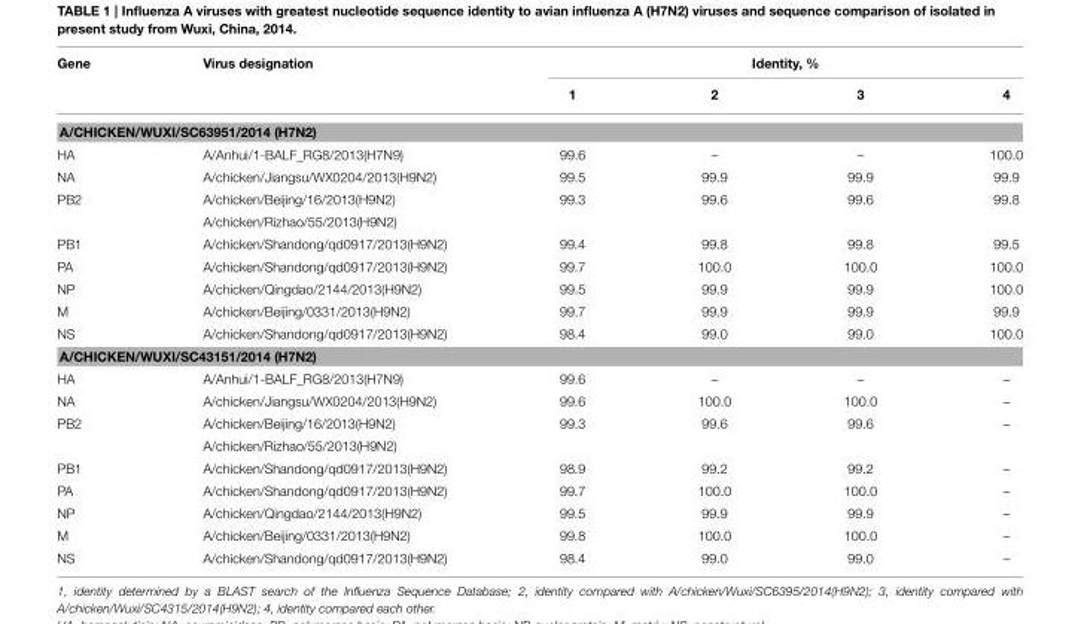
<table><thead><tr><td rowspan="2">Gene</td><td rowspan="2">Virus designation</td><td colspan="4">Identity, %</td></tr><tr><td>1</td><td>2</td><td>3</td><td>4</td></tr></thead><tbody><tr><td colspan="6">A/CHICKEN/WUXI/SC63951/2014 (H7N2)</td></tr><tr><td>HA</td><td>A/Anhui/1-BALF_RG8/2013(H7N9)</td><td>99.6</td><td>–</td><td>–</td><td>100.0</td></tr><tr><td>NA</td><td>A/chicken/Jiangsu/WX0204/2013(H9N2)</td><td>99.5</td><td>99.9</td><td>99.9</td><td>99.9</td></tr><tr><td rowspan="2">PB2</td><td>A/chicken/Beijing/16/2013(H9N2)</td><td>99.3</td><td>99.6</td><td>99.6</td><td>99.8</td></tr><tr><td>A/chicken/Rizhao/55/2013(H9N2)</td><td></td><td></td><td></td><td></td></tr><tr><td>PB1</td><td>A/chicken/Shandong/qd0917/2013(H9N2)</td><td>99.4</td><td>99.8</td><td>99.8</td><td>99.5</td></tr><tr><td>PA</td><td>A/chicken/Shandong/qd0917/2013(H9N2)</td><td>99.7</td><td>100.0</td><td>100.0</td><td>100.0</td></tr><tr><td>NP</td><td>A/chicken/Qingdao/2144/2013(H9N2)</td><td>99.5</td><td>99.9</td><td>99.9</td><td>100.0</td></tr><tr><td>M</td><td>A/chicken/Beijing/0331/2013(H9N2)</td><td>99.7</td><td>99.9</td><td>99.9</td><td>99.9</td></tr><tr><td>NS</td><td>A/chicken/Shandong/qd0917/2013(H9N2)</td><td>98.4</td><td>99.0</td><td>99.0</td><td>100.0</td></tr><tr><td colspan="6">A/CHICKEN/WUXI/SC43151/2014 (H7N2)</td></tr><tr><td>HA</td><td>A/Anhui/1-BALF_RG8/2013(H7N9)</td><td>99.6</td><td>–</td><td>–</td><td>–</td></tr><tr><td>NA</td><td>A/chicken/Jiangsu/WX0204/2013(H9N2)</td><td>99.6</td><td>100.0</td><td>100.0</td><td>–</td></tr><tr><td rowspan="2">PB2</td><td>A/chicken/Beijing/16/2013(H9N2)</td><td>99.3</td><td>99.6</td><td>99.6</td><td>–</td></tr><tr><td>A/chicken/Rizhao/55/2013(H9N2)</td><td></td><td></td><td></td><td></td></tr><tr><td>PB1</td><td>A/chicken/Shandong/qd0917/2013(H9N2)</td><td>98.9</td><td>99.2</td><td>99.2</td><td>–</td></tr><tr><td>PA</td><td>A/chicken/Shandong/qd0917/2013(H9N2)</td><td>99.7</td><td>100.0</td><td>100.0</td><td>–</td></tr><tr><td>NP</td><td>A/chicken/Qingdao/2144/2013(H9N2)</td><td>99.5</td><td>99.9</td><td>99.9</td><td>–</td></tr><tr><td>M</td><td>A/chicken/Beijing/0331/2013(H9N2)</td><td>99.8</td><td>100.0</td><td>100.0</td><td>–</td></tr><tr><td>NS</td><td>A/chicken/Shandong/qd0917/2013(H9N2)</td><td>98.4</td><td>99.0</td><td>99.0</td><td>–</td></tr></tbody></table>